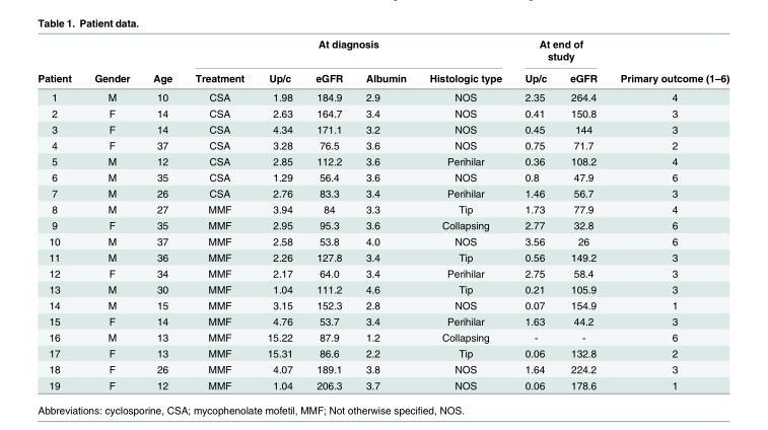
<table><thead><tr><td rowspan="2">Patient</td><td rowspan="2">Gender</td><td rowspan="2">Age</td><td colspan="5">At diagnosis</td><td colspan="2">At end of study</td><td rowspan="2">Primary outcome (1–6)</td></tr><tr><td>Treatment</td><td>Up/c</td><td>eGFR</td><td>Albumin</td><td>Histologic type</td><td>Up/c</td><td>eGFR</td></tr></thead><tbody><tr><td>1</td><td>M</td><td>10</td><td>CSA</td><td>1.98</td><td>184.9</td><td>2.9</td><td>NOS</td><td>2.35</td><td>264.4</td><td>4</td></tr><tr><td>2</td><td>F</td><td>14</td><td>CSA</td><td>2.63</td><td>164.7</td><td>3.4</td><td>NOS</td><td>0.41</td><td>150.8</td><td>3</td></tr><tr><td>3</td><td>F</td><td>14</td><td>CSA</td><td>4.34</td><td>171.1</td><td>3.2</td><td>NOS</td><td>0.45</td><td>144</td><td>3</td></tr><tr><td>4</td><td>F</td><td>37</td><td>CSA</td><td>3.28</td><td>76.5</td><td>3.6</td><td>NOS</td><td>0.75</td><td>71.7</td><td>2</td></tr><tr><td>5</td><td>M</td><td>12</td><td>CSA</td><td>2.85</td><td>112.2</td><td>3.6</td><td>Perihilar</td><td>0.36</td><td>108.2</td><td>4</td></tr><tr><td>6</td><td>M</td><td>35</td><td>CSA</td><td>1.29</td><td>56.4</td><td>3.6</td><td>NOS</td><td>0.8</td><td>47.9</td><td>6</td></tr><tr><td>7</td><td>M</td><td>26</td><td>CSA</td><td>2.76</td><td>83.3</td><td>3.4</td><td>Perihilar</td><td>1.46</td><td>56.7</td><td>3</td></tr><tr><td>8</td><td>M</td><td>27</td><td>MMF</td><td>3.94</td><td>84</td><td>3.3</td><td>Tip</td><td>1.73</td><td>77.9</td><td>4</td></tr><tr><td>9</td><td>F</td><td>35</td><td>MMF</td><td>2.95</td><td>95.3</td><td>3.6</td><td>Collapsing</td><td>2.77</td><td>32.8</td><td>6</td></tr><tr><td>10</td><td>M</td><td>37</td><td>MMF</td><td>2.58</td><td>53.8</td><td>4.0</td><td>NOS</td><td>3.56</td><td>26</td><td>6</td></tr><tr><td>11</td><td>M</td><td>36</td><td>MMF</td><td>2.26</td><td>127.8</td><td>3.4</td><td>Tip</td><td>0.56</td><td>149.2</td><td>3</td></tr><tr><td>12</td><td>F</td><td>34</td><td>MMF</td><td>2.17</td><td>64.0</td><td>3.4</td><td>Perihilar</td><td>2.75</td><td>58.4</td><td>3</td></tr><tr><td>13</td><td>M</td><td>30</td><td>MMF</td><td>1.04</td><td>111.2</td><td>4.6</td><td>Tip</td><td>0.21</td><td>105.9</td><td>3</td></tr><tr><td>14</td><td>M</td><td>15</td><td>MMF</td><td>3.15</td><td>152.3</td><td>2.8</td><td>NOS</td><td>0.07</td><td>154.9</td><td>1</td></tr><tr><td>15</td><td>F</td><td>14</td><td>MMF</td><td>4.76</td><td>53.7</td><td>3.4</td><td>Perihilar</td><td>1.63</td><td>44.2</td><td>3</td></tr><tr><td>16</td><td>M</td><td>13</td><td>MMF</td><td>15.22</td><td>87.9</td><td>1.2</td><td>Collapsing</td><td>-</td><td>-</td><td>6</td></tr><tr><td>17</td><td>F</td><td>13</td><td>MMF</td><td>15.31</td><td>86.6</td><td>2.2</td><td>Tip</td><td>0.06</td><td>132.8</td><td>2</td></tr><tr><td>18</td><td>F</td><td>26</td><td>MMF</td><td>4.07</td><td>189.1</td><td>3.8</td><td>NOS</td><td>1.64</td><td>224.2</td><td>3</td></tr><tr><td>19</td><td>F</td><td>12</td><td>MMF</td><td>1.04</td><td>206.3</td><td>3.7</td><td>NOS</td><td>0.06</td><td>178.6</td><td>1</td></tr></tbody></table>